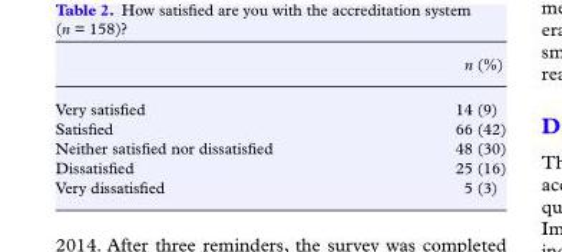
<table><thead><tr><td></td><td>n (%)</td></tr></thead><tbody><tr><td>Very satisfied</td><td>14 (9)</td></tr><tr><td>Satisfied</td><td>66 (42)</td></tr><tr><td>Neither satisfied nor dissatisfied</td><td>48 (30)</td></tr><tr><td>Dissatisfied</td><td>25 (16)</td></tr><tr><td>Very dissatisfied</td><td>5 (3)</td></tr></tbody></table>